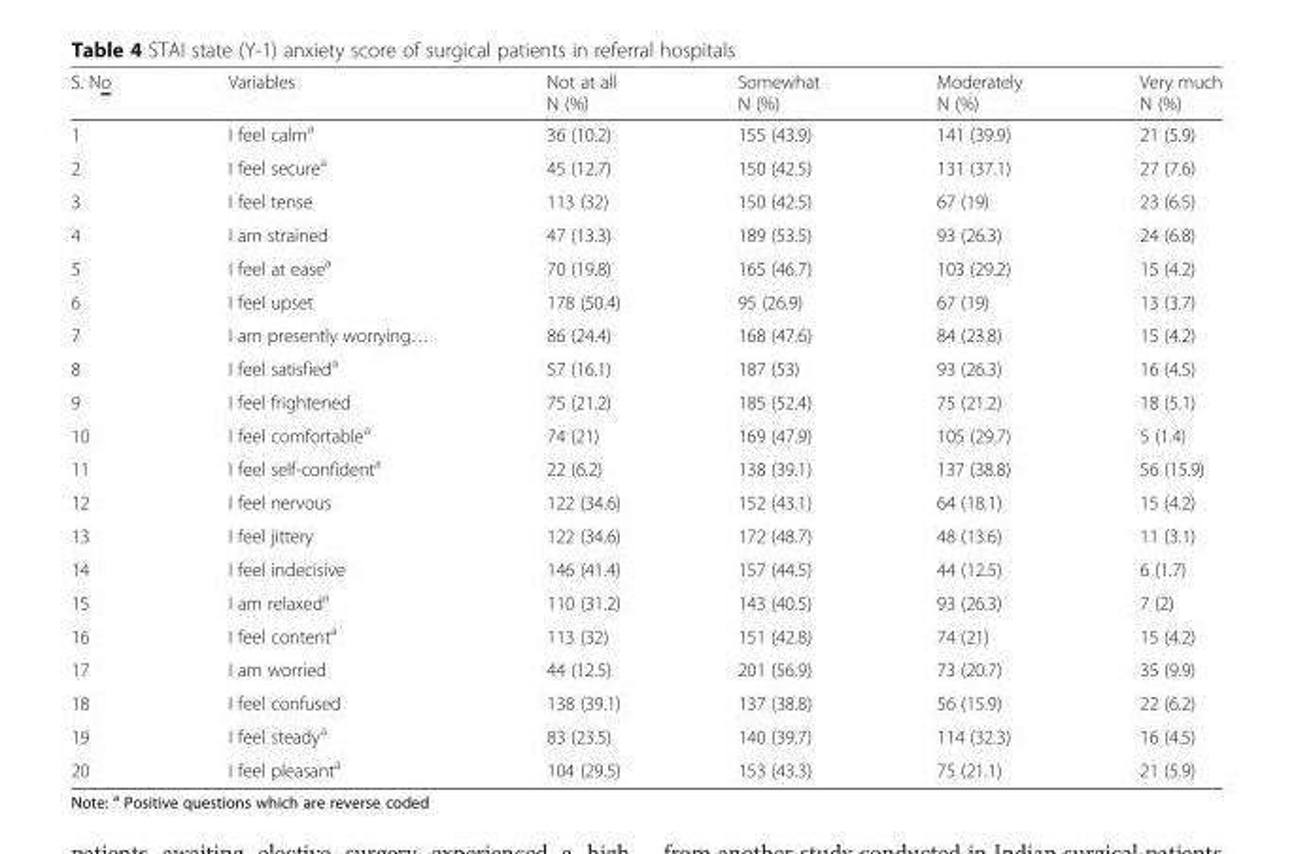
<table><thead><tr><td>S. No</td><td>Variables</td><td>Not at all N (%)</td><td>Somewhat N (%)</td><td>Moderately N (%)</td><td>Very much N (%)</td></tr></thead><tbody><tr><td>1</td><td>I feel calm<sup>a</sup></td><td>36 (10.2)</td><td>155 (43.9)</td><td>141 (39.9)</td><td>21 (5.9)</td></tr><tr><td>2</td><td>I feel secure<sup>a</sup></td><td>45 (12.7)</td><td>150 (42.5)</td><td>131 (37.1)</td><td>27 (7.6)</td></tr><tr><td>3</td><td>I feel tense</td><td>113 (32)</td><td>150 (42.5)</td><td>67 (19)</td><td>23 (6.5)</td></tr><tr><td>4</td><td>I am strained</td><td>47 (13.3)</td><td>189 (53.5)</td><td>93 (26.3)</td><td>24 (6.8)</td></tr><tr><td>5</td><td>I feel at ease<sup>a</sup></td><td>70 (19.8)</td><td>165 (46.7)</td><td>103 (29.2)</td><td>15 (4.2)</td></tr><tr><td>6</td><td>I feel upset</td><td>178 (50.4)</td><td>95 (26.9)</td><td>67 (19)</td><td>13 (3.7)</td></tr><tr><td>7</td><td>I am presently worrying…</td><td>86 (24.4)</td><td>168 (47.6)</td><td>84 (23.8)</td><td>15 (4.2)</td></tr><tr><td>8</td><td>I feel satisfied<sup>a</sup></td><td>57 (16.1)</td><td>187 (53)</td><td>93 (26.3)</td><td>16 (4.5)</td></tr><tr><td>9</td><td>I feel frightened</td><td>75 (21.2)</td><td>185 (52.4)</td><td>75 (21.2)</td><td>18 (5.1)</td></tr><tr><td>10</td><td>I feel comfortable<sup>a</sup></td><td>74 (21)</td><td>169 (47.9)</td><td>105 (29.7)</td><td>5 (1.4)</td></tr><tr><td>11</td><td>I feel self-confident<sup>a</sup></td><td>22 (6.2)</td><td>138 (39.1)</td><td>137 (38.8)</td><td>56 (15.9)</td></tr><tr><td>12</td><td>I feel nervous</td><td>122 (34.6)</td><td>152 (43.1)</td><td>64 (18.1)</td><td>15 (4.2)</td></tr><tr><td>13</td><td>I feel jittery</td><td>122 (34.6)</td><td>172 (48.7)</td><td>48 (13.6)</td><td>11 (3.1)</td></tr><tr><td>14</td><td>I feel indecisive</td><td>146 (41.4)</td><td>157 (44.5)</td><td>44 (12.5)</td><td>6 (1.7)</td></tr><tr><td>15</td><td>I am relaxed<sup>a</sup></td><td>110 (31.2)</td><td>143 (40.5)</td><td>93 (26.3)</td><td>7 (2)</td></tr><tr><td>16</td><td>I feel content<sup>a</sup></td><td>113 (32)</td><td>151 (42.8)</td><td>74 (21)</td><td>15 (4.2)</td></tr><tr><td>17</td><td>I am worried</td><td>44 (12.5)</td><td>201 (56.9)</td><td>73 (20.7)</td><td>35 (9.9)</td></tr><tr><td>18</td><td>I feel confused</td><td>138 (39.1)</td><td>137 (38.8)</td><td>56 (15.9)</td><td>22 (6.2)</td></tr><tr><td>19</td><td>I feel steady<sup>a</sup></td><td>83 (23.5)</td><td>140 (39.7)</td><td>114 (32.3)</td><td>16 (4.5)</td></tr><tr><td>20</td><td>I feel pleasant<sup>a</sup></td><td>104 (29.5)</td><td>153 (43.3)</td><td>75 (21.1)</td><td>21 (5.9)</td></tr></tbody></table>